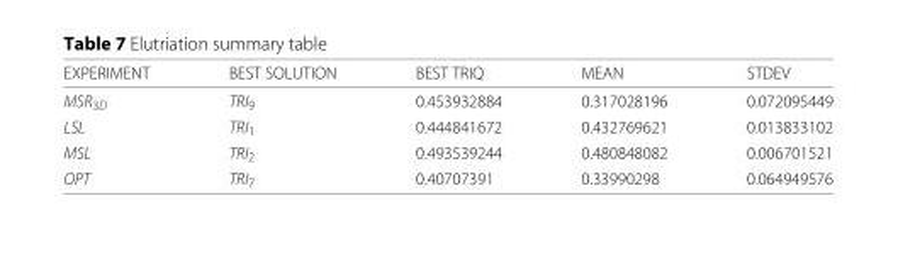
<table><thead><tr><td>EXPERIMENT</td><td>BEST SOLUTION</td><td>BEST TRIQ</td><td>MEAN</td><td>STDEV</td></tr></thead><tbody><tr><td>MSR<sub>3D</sub></td><td>TRI<sub>9</sub></td><td>0.453932884</td><td>0.317028196</td><td>0.072095449</td></tr><tr><td>LSL</td><td>TRI<sub>1</sub></td><td>0.444841672</td><td>0.432769621</td><td>0.013833102</td></tr><tr><td>MSL</td><td>TRI<sub>2</sub></td><td>0.493539244</td><td>0.480848082</td><td>0.006701521</td></tr><tr><td>OPT</td><td>TRI<sub>7</sub></td><td>0.40707391</td><td>0.33990298</td><td>0.064949576</td></tr></tbody></table>